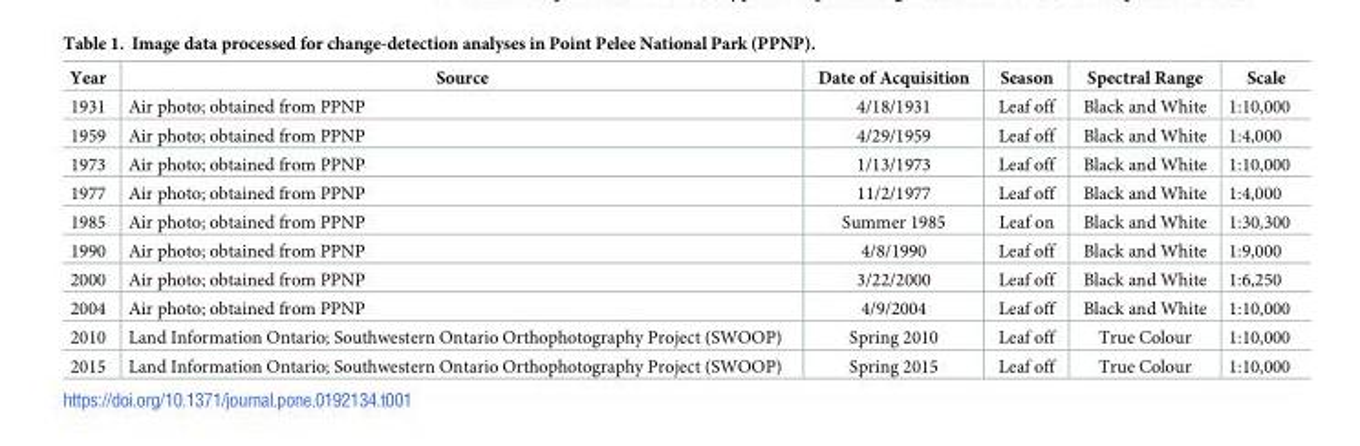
<table><thead><tr><td>Year</td><td>Source</td><td>Date of Acquisition</td><td>Season</td><td>Spectral Range</td><td>Scale</td></tr></thead><tbody><tr><td>1931</td><td>Air photo; obtained from PPNP</td><td>4/18/1931</td><td>Leaf off</td><td>Black and White</td><td>1:10,000</td></tr><tr><td>1959</td><td>Air photo; obtained from PPNP</td><td>4/29/1959</td><td>Leaf off</td><td>Black and White</td><td>1:4,000</td></tr><tr><td>1973</td><td>Air photo; obtained from PPNP</td><td>1/13/1973</td><td>Leaf off</td><td>Black and White</td><td>1:10,000</td></tr><tr><td>1977</td><td>Air photo; obtained from PPNP</td><td>11/2/1977</td><td>Leaf off</td><td>Black and White</td><td>1:4,000</td></tr><tr><td>1985</td><td>Air photo; obtained from PPNP</td><td>Summer 1985</td><td>Leaf on</td><td>Black and White</td><td>1:30,300</td></tr><tr><td>1990</td><td>Air photo; obtained from PPNP</td><td>4/8/1990</td><td>Leaf off</td><td>Black and White</td><td>1:9,000</td></tr><tr><td>2000</td><td>Air photo; obtained from PPNP</td><td>3/22/2000</td><td>Leaf off</td><td>Black and White</td><td>1:6,250</td></tr><tr><td>2004</td><td>Air photo; obtained from PPNP</td><td>4/9/2004</td><td>Leaf off</td><td>Black and White</td><td>1:10,000</td></tr><tr><td>2010</td><td>Land Information Ontario; Southwestern Ontario Orthophotography Project (SWOOP)</td><td>Spring 2010</td><td>Leaf off</td><td>True Colour</td><td>1:10,000</td></tr><tr><td>2015</td><td>Land Information Ontario; Southwestern Ontario Orthophotography Project (SWOOP)</td><td>Spring 2015</td><td>Leaf off</td><td>True Colour</td><td>1:10,000</td></tr></tbody></table>